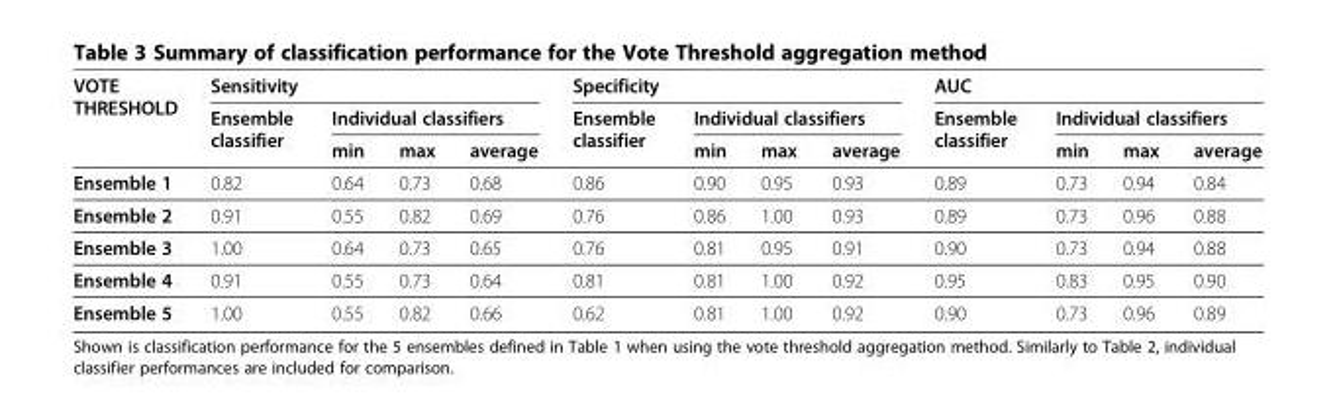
<table><thead><tr><td rowspan="3">VOTE THRESHOLD</td><td colspan="4">Sensitivity</td><td colspan="4">Specificity</td><td colspan="4">AUC</td></tr><tr><td rowspan="2">Ensemble classifier</td><td colspan="3">Individual classifiers</td><td rowspan="2">Ensemble classifier</td><td colspan="3">Individual classifiers</td><td rowspan="2">Ensemble classifier</td><td colspan="3">Individual classifiers</td></tr><tr><td>min</td><td>max</td><td>average</td><td>min</td><td>max</td><td>average</td><td>min</td><td>max</td><td>average</td></tr></thead><tbody><tr><td>Ensemble 1</td><td>0.82</td><td>0.64</td><td>0.73</td><td>0.68</td><td>0.86</td><td>0.90</td><td>0.95</td><td>0.93</td><td>0.89</td><td>0.73</td><td>0.94</td><td>0.84</td></tr><tr><td>Ensemble 2</td><td>0.91</td><td>0.55</td><td>0.82</td><td>0.69</td><td>0.76</td><td>0.86</td><td>1.00</td><td>0.93</td><td>0.89</td><td>0.73</td><td>0.96</td><td>0.88</td></tr><tr><td>Ensemble 3</td><td>1.00</td><td>0.64</td><td>0.73</td><td>0.65</td><td>0.76</td><td>0.81</td><td>0.95</td><td>0.91</td><td>0.90</td><td>0.73</td><td>0.94</td><td>0.88</td></tr><tr><td>Ensemble 4</td><td>0.91</td><td>0.55</td><td>0.73</td><td>0.64</td><td>0.81</td><td>0.81</td><td>1.00</td><td>0.92</td><td>0.95</td><td>0.83</td><td>0.95</td><td>0.90</td></tr><tr><td>Ensemble 5</td><td>1.00</td><td>0.55</td><td>0.82</td><td>0.66</td><td>0.62</td><td>0.81</td><td>1.00</td><td>0.92</td><td>0.90</td><td>0.73</td><td>0.96</td><td>0.89</td></tr></tbody></table>